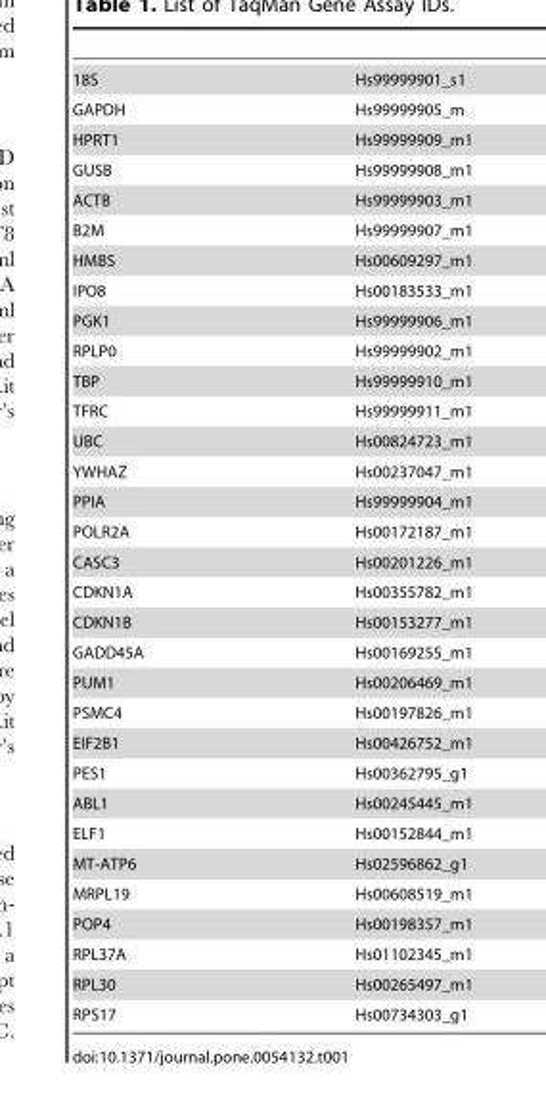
<table><tbody><tr><td>18S</td><td>Hs99999901_s1</td></tr><tr><td>GAPDH</td><td>Hs99999905_m</td></tr><tr><td>HPRT1</td><td>Hs99999909_m1</td></tr><tr><td>GUSB</td><td>Hs99999908_m1</td></tr><tr><td>ACTB</td><td>Hs99999903_m1</td></tr><tr><td>B2M</td><td>Hs99999907_m1</td></tr><tr><td>HMBS</td><td>Hs00609297_m1</td></tr><tr><td>IPO8</td><td>Hs00183533_m1</td></tr><tr><td>PGK1</td><td>Hs99999906_m1</td></tr><tr><td>RPLP0</td><td>Hs99999902_m1</td></tr><tr><td>TBP</td><td>Hs99999910_m1</td></tr><tr><td>TFRC</td><td>Hs99999911_m1</td></tr><tr><td>UBC</td><td>Hs00824723_m1</td></tr><tr><td>YWHAZ</td><td>Hs00237047_m1</td></tr><tr><td>PPIA</td><td>Hs99999904_m1</td></tr><tr><td>POLR2A</td><td>Hs00172187_m1</td></tr><tr><td>CASC3</td><td>Hs00201226_m1</td></tr><tr><td>CDKN1A</td><td>Hs00355782_m1</td></tr><tr><td>CDKN1B</td><td>Hs00153277_m1</td></tr><tr><td>GADD45A</td><td>Hs00169255_m1</td></tr><tr><td>PUM1</td><td>Hs00206469_m1</td></tr><tr><td>PSMC4</td><td>Hs00197826_m1</td></tr><tr><td>EIF2B1</td><td>Hs00426752_m1</td></tr><tr><td>PES1</td><td>Hs00362795_g1</td></tr><tr><td>ABL1</td><td>Hs00245445_m1</td></tr><tr><td>ELF1</td><td>Hs00152844_m1</td></tr><tr><td>MT-ATP6</td><td>Hs02596862_g1</td></tr><tr><td>MRPL19</td><td>Hs00608519_m1</td></tr><tr><td>POP4</td><td>Hs00198357_m1</td></tr><tr><td>RPL37A</td><td>Hs01102345_m1</td></tr><tr><td>RPL30</td><td>Hs00265497_m1</td></tr><tr><td>RPS17</td><td>Hs00734303_g1</td></tr></tbody></table>